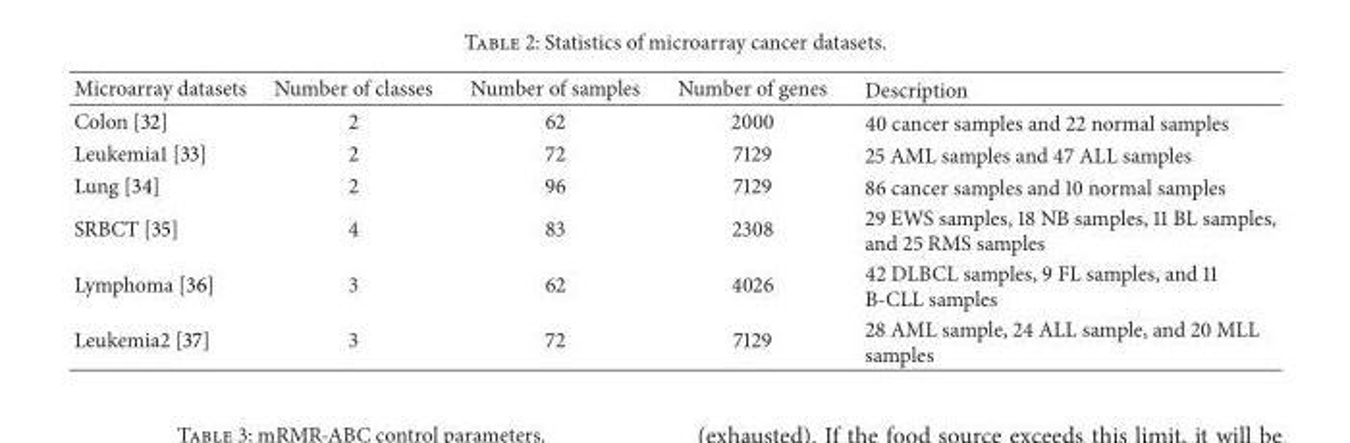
<table><thead><tr><td>Microarray datasets</td><td>Number of classes</td><td>Number of samples</td><td>Number of genes</td><td>Description</td></tr></thead><tbody><tr><td>Colon [32]</td><td>2</td><td>62</td><td>2000</td><td>40 cancer samples and 22 normal samples</td></tr><tr><td>Leukemia1 [33]</td><td>2</td><td>72</td><td>7129</td><td>25 AML samples and 47 ALL samples</td></tr><tr><td>Lung [34]</td><td>2</td><td>96</td><td>7129</td><td>86 cancer samples and 10 normal samples</td></tr><tr><td>SRBCT [35]</td><td>4</td><td>83</td><td>2308</td><td>29 EWS samples, 18 NB samples, 11 BL samples, and 25 RMS samples</td></tr><tr><td>Lymphoma [36]</td><td>3</td><td>62</td><td>4026</td><td>42 DLBCL samples, 9 FL samples, and 11 B-CLL samples</td></tr><tr><td>Leukemia2 [37]</td><td>3</td><td>72</td><td>7129</td><td>28 AML sample, 24 ALL sample, and 20 MLL samples</td></tr></tbody></table>